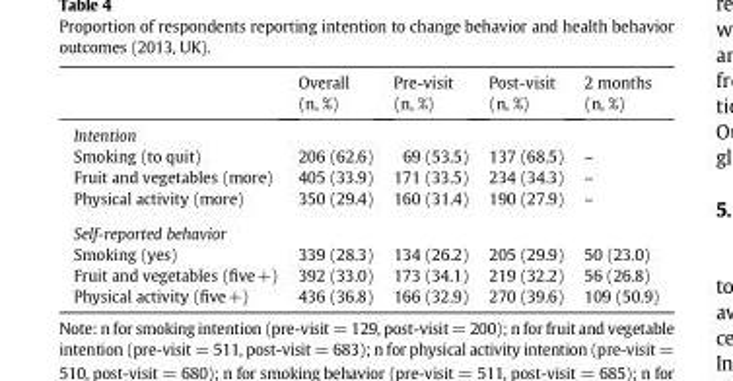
<table><thead><tr><td></td><td>Overall (n, %)</td><td>Pre-visit (n, %)</td><td>Post-visit (n, %)</td><td>2 months (n, %)</td></tr></thead><tbody><tr><td colspan="5">Intention</td></tr><tr><td>Smoking (to quit)</td><td>206 (62.6)</td><td>69 (53.5)</td><td>137 (68.5)</td><td>–</td></tr><tr><td>Fruit and vegetables (more)</td><td>405 (33.9)</td><td>171 (33.5)</td><td>234 (34.3)</td><td>–</td></tr><tr><td>Physical activity (more)</td><td>350 (29.4)</td><td>160 (31.4)</td><td>190 (27.9)</td><td>–</td></tr><tr><td colspan="5">Self-reported behavior</td></tr><tr><td>Smoking (yes)</td><td>339 (28.3)</td><td>134 (26.2)</td><td>205 (29.9)</td><td>50 (23.0)</td></tr><tr><td>Fruit and vegetables (five+)</td><td>392 (33.0)</td><td>173 (34.1)</td><td>219 (32.2)</td><td>56 (26.8)</td></tr><tr><td>Physical activity (five+)</td><td>436 (36.8)</td><td>166 (32.9)</td><td>270 (39.6)</td><td>109 (50.9)</td></tr></tbody></table>